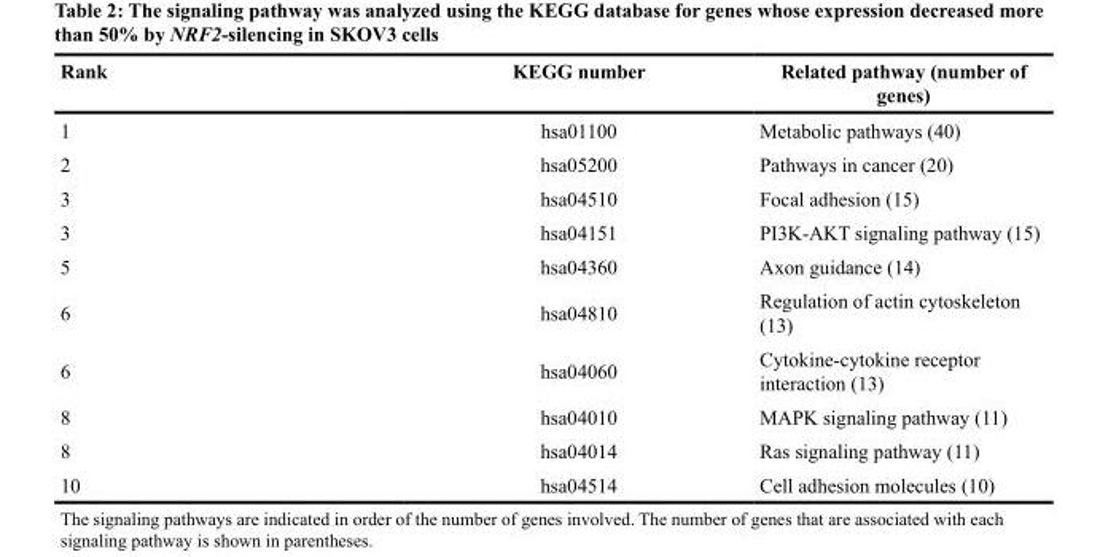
<table><thead><tr><td>Rank</td><td>KEGG number</td><td>Related pathway (number of genes)</td></tr></thead><tbody><tr><td>1</td><td>hsa01100</td><td>Metabolic pathways (40)</td></tr><tr><td>2</td><td>hsa05200</td><td>Pathways in cancer (20)</td></tr><tr><td>3</td><td>hsa04510</td><td>Focal adhesion (15)</td></tr><tr><td>3</td><td>hsa04151</td><td>PI3K-AKT signaling pathway (15)</td></tr><tr><td>5</td><td>hsa04360</td><td>Axon guidance (14)</td></tr><tr><td>6</td><td>hsa04810</td><td>Regulation of actin cytoskeleton (13)</td></tr><tr><td>6</td><td>hsa04060</td><td>Cytokine-cytokine receptor interaction (13)</td></tr><tr><td>8</td><td>hsa04010</td><td>MAPK signaling pathway (11)</td></tr><tr><td>8</td><td>hsa04014</td><td>Ras signaling pathway (11)</td></tr><tr><td>10</td><td>hsa04514</td><td>Cell adhesion molecules (10)</td></tr></tbody></table>